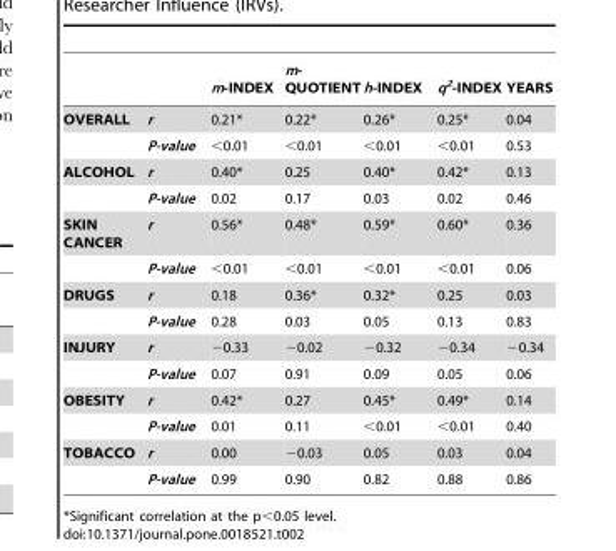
<table><thead><tr><td></td><td></td><td>m-INDEX</td><td>m- QUOTIENT</td><td>h-INDEX</td><td>q<sup>2</sup>-INDEX</td><td>YEARS</td></tr></thead><tbody><tr><td rowspan="2">OVERALL</td><td>r</td><td>0.21*</td><td>0.22*</td><td>0.26*</td><td>0.25*</td><td>0.04</td></tr><tr><td>P-value</td><td>&lt;0.01</td><td>&lt;0.01</td><td>&lt;0.01</td><td>&lt;0.01</td><td>0.53</td></tr><tr><td rowspan="2">ALCOHOL</td><td>r</td><td>0.40*</td><td>0.25</td><td>0.40*</td><td>0.42*</td><td>0.13</td></tr><tr><td>P-value</td><td>0.02</td><td>0.17</td><td>0.03</td><td>0.02</td><td>0.46</td></tr><tr><td rowspan="2">SKIN CANCER</td><td>r</td><td>0.56*</td><td>0.48*</td><td>0.59*</td><td>0.60*</td><td>0.36</td></tr><tr><td>P-value</td><td>&lt;0.01</td><td>&lt;0.01</td><td>&lt;0.01</td><td>&lt;0.01</td><td>0.06</td></tr><tr><td rowspan="2">DRUGS</td><td>r</td><td>0.18</td><td>0.36*</td><td>0.32*</td><td>0.25</td><td>0.03</td></tr><tr><td>P-value</td><td>0.28</td><td>0.03</td><td>0.05</td><td>0.13</td><td>0.83</td></tr><tr><td rowspan="2">INJURY</td><td>r</td><td>−0.33</td><td>−0.02</td><td>−0.32</td><td>−0.34</td><td>−0.34</td></tr><tr><td>P-value</td><td>0.07</td><td>0.91</td><td>0.09</td><td>0.05</td><td>0.06</td></tr><tr><td rowspan="2">OBESITY</td><td>r</td><td>0.42*</td><td>0.27</td><td>0.45*</td><td>0.49*</td><td>0.14</td></tr><tr><td>P-value</td><td>0.01</td><td>0.11</td><td>&lt;0.01</td><td>&lt;0.01</td><td>0.40</td></tr><tr><td rowspan="2">TOBACCO</td><td>r</td><td>0.00</td><td>−0.03</td><td>0.05</td><td>0.03</td><td>0.04</td></tr><tr><td>P-value</td><td>0.99</td><td>0.90</td><td>0.82</td><td>0.88</td><td>0.86</td></tr></tbody></table>